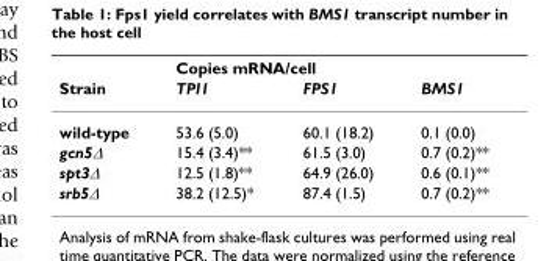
<table><thead><tr><td rowspan="2">Strain</td><td colspan="3">Copies mRNA/cell</td></tr><tr><td>TPI1</td><td>FPS1</td><td>BMS1</td></tr></thead><tbody><tr><td>wild-type</td><td>53.6 (5.0)</td><td>60.1 (18.2)</td><td>0.1 (0.0)</td></tr><tr><td>gcn5Δ</td><td>15.4 (3.4)**</td><td>61.5 (3.0)</td><td>0.7 (0.2)**</td></tr><tr><td>spt3Δ</td><td>12.5 (1.8)**</td><td>64.9 (26.0)</td><td>0.6 (0.1)**</td></tr><tr><td>srb5Δ</td><td>38.2 (12.5)*</td><td>87.4 (1.5)</td><td>0.7 (0.2)**</td></tr></tbody></table>